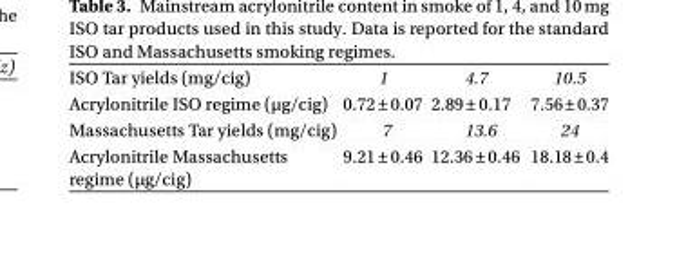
<table><tbody><tr><td>ISO Tar yields (mg/cig)</td><td>1</td><td>4.7</td><td>10.5</td></tr><tr><td>Acrylonitrile ISO regime (µg/cig)</td><td>0.72 ± 0.07</td><td>2.89 ± 0.17</td><td>7.56 ± 0.37</td></tr><tr><td>Massachusetts Tar yields (mg/cig)</td><td>7</td><td>13.6</td><td>24</td></tr><tr><td>Acrylonitrile Massachusetts regime (µg/cig)</td><td>9.21 ± 0.46</td><td>12.36 ± 0.46</td><td>18.18 ± 0.4</td></tr></tbody></table>